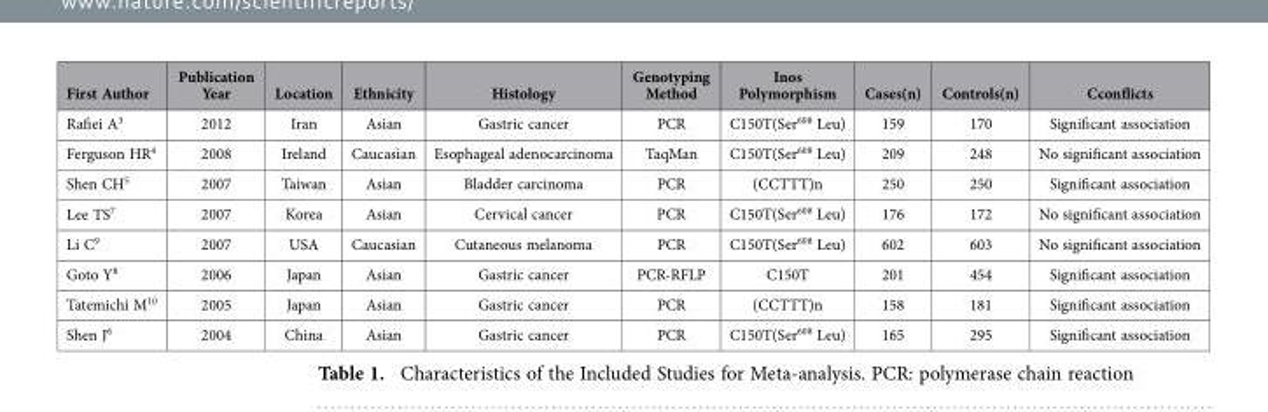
<table><thead><tr><td>First Author</td><td>Publication Year</td><td>Location</td><td>Ethnicity</td><td>Histology</td><td>Genotyping Method</td><td>Inos Polymorphism</td><td>Cases(n)</td><td>Controls(n)</td><td>Cconflicts</td></tr></thead><tbody><tr><td>Rafiei A<sup>3</sup></td><td>2012</td><td>Iran</td><td>Asian</td><td>Gastric cancer</td><td>PCR</td><td>C150T(Ser<sup>608</sup> Leu)</td><td>159</td><td>170</td><td>Significant association</td></tr><tr><td>Ferguson HR<sup>4</sup></td><td>2008</td><td>Ireland</td><td>Caucasian</td><td>Esophageal adenocarcinoma</td><td>TaqMan</td><td>C150T(Ser<sup>608</sup> Leu)</td><td>209</td><td>248</td><td>No significant association</td></tr><tr><td>Shen CH<sup>5</sup></td><td>2007</td><td>Taiwan</td><td>Asian</td><td>Bladder carcinoma</td><td>PCR</td><td>(CCTTT)n</td><td>250</td><td>250</td><td>Significant association</td></tr><tr><td>Lee TS<sup>7</sup></td><td>2007</td><td>Korea</td><td>Asian</td><td>Cervical cancer</td><td>PCR</td><td>C150T(Ser<sup>608</sup> Leu)</td><td>176</td><td>172</td><td>No significant association</td></tr><tr><td>Li C<sup>9</sup></td><td>2007</td><td>USA</td><td>Caucasian</td><td>Cutaneous melanoma</td><td>PCR</td><td>C150T(Ser<sup>608</sup> Leu)</td><td>602</td><td>603</td><td>No significant association</td></tr><tr><td>Goto Y<sup>8</sup></td><td>2006</td><td>Japan</td><td>Asian</td><td>Gastric cancer</td><td>PCR-RFLP</td><td>C150T</td><td>201</td><td>454</td><td>Significant association</td></tr><tr><td>Tatemichi M<sup>10</sup></td><td>2005</td><td>Japan</td><td>Asian</td><td>Gastric cancer</td><td>PCR</td><td>(CCTTT)n</td><td>158</td><td>181</td><td>Significant association</td></tr><tr><td>Shen J<sup>6</sup></td><td>2004</td><td>China</td><td>Asian</td><td>Gastric cancer</td><td>PCR</td><td>C150T(Ser<sup>608</sup> Leu)</td><td>165</td><td>295</td><td>Significant association</td></tr></tbody></table>